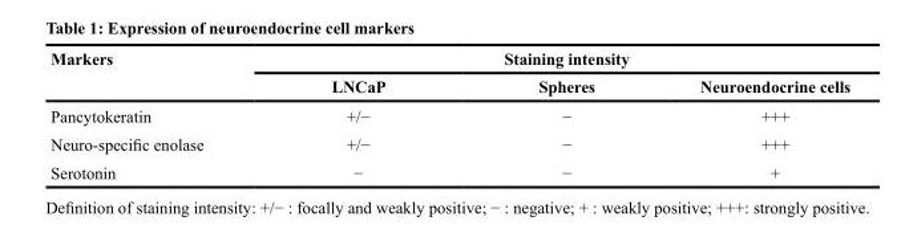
<table><thead><tr><td rowspan="2">Markers</td><td colspan="3">Staining intensity</td></tr><tr><td>LNCaP</td><td>Spheres</td><td>Neuroendocrine cells</td></tr></thead><tbody><tr><td>Pancytokeratin</td><td>+/−</td><td>−</td><td>+++</td></tr><tr><td>Neuro-specific enolase</td><td>+/−</td><td>−</td><td>+++</td></tr><tr><td>Serotonin</td><td>−</td><td>−</td><td>+</td></tr></tbody></table>